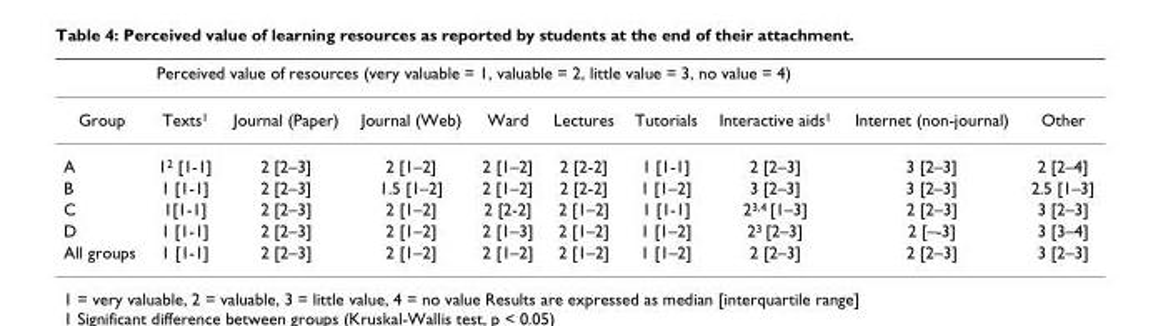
<table><thead><tr><td rowspan="2">Group</td><td colspan="9">Perceived value of resources (very valuable = 1, valuable = 2, little value = 3, no value = 4)</td></tr><tr><td>Texts<sup>1</sup></td><td>Journal (Paper)</td><td>Journal (Web)</td><td>Ward</td><td>Lectures</td><td>Tutorials</td><td>Interactive aids<sup>1</sup></td><td>Internet (non-journal)</td><td>Other</td></tr></thead><tbody><tr><td>A</td><td>1<sup>2</sup> [1-1]</td><td>2 [2–3]</td><td>2 [1–2]</td><td>2 [1–2]</td><td>2 [2-2]</td><td>1 [1-1]</td><td>2 [2–3]</td><td>3 [2–3]</td><td>2 [2–4]</td></tr><tr><td>B</td><td>1 [1-1]</td><td>2 [2–3]</td><td>1.5 [1–2]</td><td>2 [1–2]</td><td>2 [2-2]</td><td>1 [1–2]</td><td>3 [2–3]</td><td>3 [2–3]</td><td>2.5 [1–3]</td></tr><tr><td>C</td><td>1[1-1]</td><td>2 [2–3]</td><td>2 [1–2]</td><td>2 [2-2]</td><td>2 [1–2]</td><td>1 [1-1]</td><td>2<sup>3,4</sup> [1–3]</td><td>2 [2–3]</td><td>3 [2–3]</td></tr><tr><td>D</td><td>1 [1-1]</td><td>2 [2–3]</td><td>2 [1–2]</td><td>2 [1–3]</td><td>2 [1–2]</td><td>1 [1–2]</td><td>2<sup>3</sup> [2–3]</td><td>2 [–-3]</td><td>3 [3–4]</td></tr><tr><td>All groups</td><td>1 [1-1]</td><td>2 [2–3]</td><td>2 [1–2]</td><td>2 [1–2]</td><td>2 [1–2]</td><td>1 [1–2]</td><td>2 [2–3]</td><td>2 [2–3]</td><td>3 [2–3]</td></tr></tbody></table>